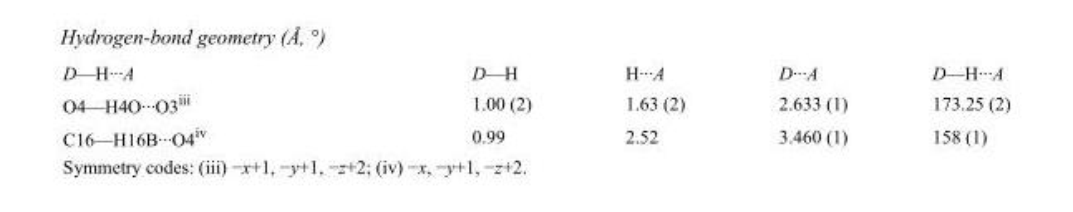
<table><tbody><tr><td>D—H···A</td><td>D—H</td><td>H···A</td><td>D···A</td><td>D—H···A</td></tr><tr><td>O4—H4O···O3<sup>iii</sup></td><td>1.00 (2)</td><td>1.63 (2)</td><td>2.633 (1)</td><td>173.25 (2)</td></tr><tr><td>C16—H16B···O4<sup>iv</sup></td><td>0.99</td><td>2.52</td><td>3.460 (1)</td><td>158 (1)</td></tr></tbody></table>